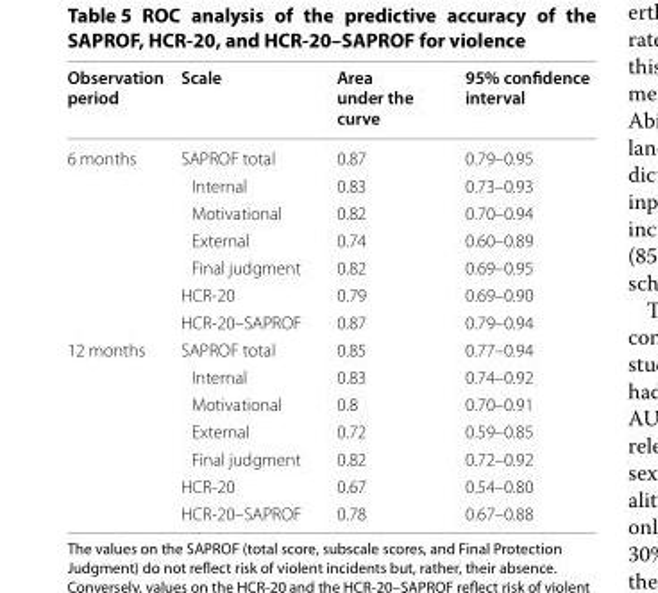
<table><thead><tr><td>Observation period</td><td>Scale</td><td>Area under the curve</td><td>95% confidence interval</td></tr></thead><tbody><tr><td rowspan="7">6 months</td><td>SAPROF total</td><td>0.87</td><td>0.79–0.95</td></tr><tr><td>Internal</td><td>0.83</td><td>0.73–0.93</td></tr><tr><td>Motivational</td><td>0.82</td><td>0.70–0.94</td></tr><tr><td>External</td><td>0.74</td><td>0.60–0.89</td></tr><tr><td>Final judgment</td><td>0.82</td><td>0.69–0.95</td></tr><tr><td>HCR-20</td><td>0.79</td><td>0.69–0.90</td></tr><tr><td>HCR-20–SAPROF</td><td>0.87</td><td>0.79–0.94</td></tr><tr><td rowspan="7">12 months</td><td>SAPROF total</td><td>0.85</td><td>0.77–0.94</td></tr><tr><td>Internal</td><td>0.83</td><td>0.74–0.92</td></tr><tr><td>Motivational</td><td>0.8</td><td>0.70–0.91</td></tr><tr><td>External</td><td>0.72</td><td>0.59–0.85</td></tr><tr><td>Final judgment</td><td>0.82</td><td>0.72–0.92</td></tr><tr><td>HCR-20</td><td>0.67</td><td>0.54–0.80</td></tr><tr><td>HCR-20–SAPROF</td><td>0.78</td><td>0.67–0.88</td></tr></tbody></table>